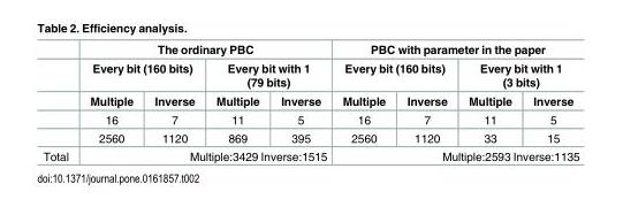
<table><thead><tr><td rowspan="3"></td><td colspan="4">The ordinary PBC</td><td colspan="4">PBC with parameter in the paper</td></tr><tr><td colspan="2">Every bit (160 bits)</td><td colspan="2">Every bit with 1 (79 bits)</td><td colspan="2">Every bit (160 bits)</td><td colspan="2">Every bit with 1 (3 bits)</td></tr><tr><td>Multiple</td><td>Inverse</td><td>Multiple</td><td>Inverse</td><td>Multiple</td><td>Inverse</td><td>Multiple</td><td>Inverse</td></tr></thead><tbody><tr><td></td><td>16</td><td>7</td><td>11</td><td>5</td><td>16</td><td>7</td><td>11</td><td>5</td></tr><tr><td></td><td>2560</td><td>1120</td><td>869</td><td>395</td><td>2560</td><td>1120</td><td>33</td><td>15</td></tr><tr><td>Total</td><td colspan="4">Multiple:3429 Inverse:1515</td><td colspan="4">Multiple:2593 Inverse:1135</td></tr></tbody></table>